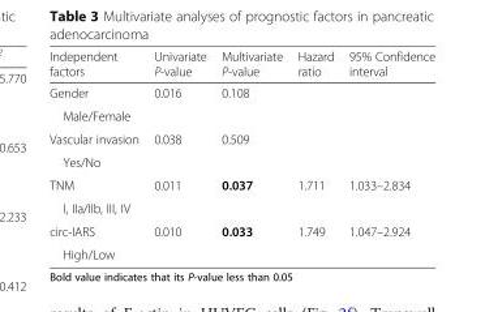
<table><thead><tr><td>Independent factors</td><td>Univariate P-value</td><td>Multivariate P-value</td><td>Hazard ratio</td><td>95% Confidence interval</td></tr></thead><tbody><tr><td>Gender</td><td>0.016</td><td>0.108</td><td></td><td></td></tr><tr><td colspan="5">Male/Female</td></tr><tr><td>Vascular invasion</td><td>0.038</td><td>0.509</td><td></td><td></td></tr><tr><td colspan="5">Yes/No</td></tr><tr><td>TNM</td><td>0.011</td><td>0.037</td><td>1.711</td><td>1.033–2.834</td></tr><tr><td colspan="5">I, IIa/IIb, III, IV</td></tr><tr><td>circ-IARS</td><td>0.010</td><td>0.033</td><td>1.749</td><td>1.047–2.924</td></tr><tr><td colspan="5">High/Low</td></tr></tbody></table>